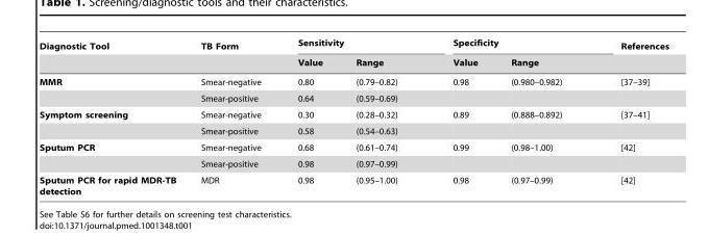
<table><thead><tr><td rowspan="2">Diagnostic Tool</td><td rowspan="2">TB Form</td><td colspan="2">Sensitivity</td><td colspan="2">Specificity</td><td rowspan="2">References</td></tr><tr><td>Value</td><td>Range</td><td>Value</td><td>Range</td></tr></thead><tbody><tr><td rowspan="2">MMR</td><td>Smear-negative</td><td>0.80</td><td>(0.79–0.82)</td><td>0.98</td><td>(0.980–0.982)</td><td>[37–39]</td></tr><tr><td>Smear-positive</td><td>0.64</td><td>(0.59–0.69)</td><td></td><td></td><td></td></tr><tr><td rowspan="2">Symptom screening</td><td>Smear-negative</td><td>0.30</td><td>(0.28–0.32)</td><td>0.89</td><td>(0.888–0.892)</td><td>[37–41]</td></tr><tr><td>Smear-positive</td><td>0.58</td><td>(0.54–0.63)</td><td></td><td></td><td></td></tr><tr><td rowspan="2">Sputum PCR</td><td>Smear-negative</td><td>0.68</td><td>(0.61–0.74)</td><td>0.99</td><td>(0.98–1.00)</td><td>[42]</td></tr><tr><td>Smear-positive</td><td>0.98</td><td>(0.97–0.99)</td><td></td><td></td><td></td></tr><tr><td>Sputum PCR for rapid MDR-TB detection</td><td>MDR</td><td>0.98</td><td>(0.95–1.00)</td><td>0.98</td><td>(0.97–0.99)</td><td>[42]</td></tr></tbody></table>